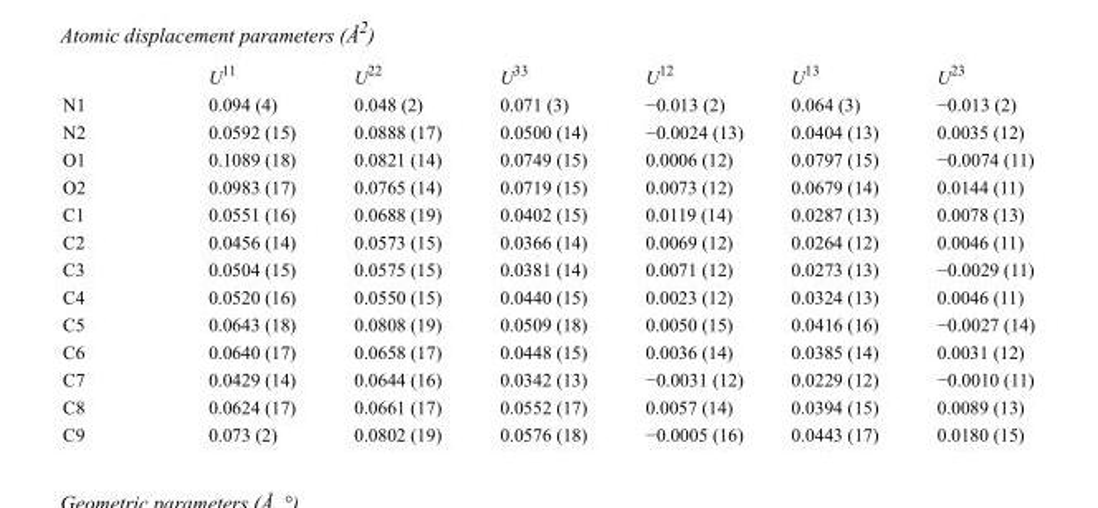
<table><thead><tr><td></td><td>U<sup>11</sup></td><td>U<sup>22</sup></td><td>U<sup>33</sup></td><td>U<sup>12</sup></td><td>U<sup>13</sup></td><td>U<sup>23</sup></td></tr></thead><tbody><tr><td>N1</td><td>0.094 (4)</td><td>0.048 (2)</td><td>0.071 (3)</td><td>−0.013 (2)</td><td>0.064 (3)</td><td>−0.013 (2)</td></tr><tr><td>N2</td><td>0.0592 (15)</td><td>0.0888 (17)</td><td>0.0500 (14)</td><td>−0.0024 (13)</td><td>0.0404 (13)</td><td>0.0035 (12)</td></tr><tr><td>O1</td><td>0.1089 (18)</td><td>0.0821 (14)</td><td>0.0749 (15)</td><td>0.0006 (12)</td><td>0.0797 (15)</td><td>−0.0074 (11)</td></tr><tr><td>O2</td><td>0.0983 (17)</td><td>0.0765 (14)</td><td>0.0719 (15)</td><td>0.0073 (12)</td><td>0.0679 (14)</td><td>0.0144 (11)</td></tr><tr><td>C1</td><td>0.0551 (16)</td><td>0.0688 (19)</td><td>0.0402 (15)</td><td>0.0119 (14)</td><td>0.0287 (13)</td><td>0.0078 (13)</td></tr><tr><td>C2</td><td>0.0456 (14)</td><td>0.0573 (15)</td><td>0.0366 (14)</td><td>0.0069 (12)</td><td>0.0264 (12)</td><td>0.0046 (11)</td></tr><tr><td>C3</td><td>0.0504 (15)</td><td>0.0575 (15)</td><td>0.0381 (14)</td><td>0.0071 (12)</td><td>0.0273 (13)</td><td>−0.0029 (11)</td></tr><tr><td>C4</td><td>0.0520 (16)</td><td>0.0550 (15)</td><td>0.0440 (15)</td><td>0.0023 (12)</td><td>0.0324 (13)</td><td>0.0046 (11)</td></tr><tr><td>C5</td><td>0.0643 (18)</td><td>0.0808 (19)</td><td>0.0509 (18)</td><td>0.0050 (15)</td><td>0.0416 (16)</td><td>−0.0027 (14)</td></tr><tr><td>C6</td><td>0.0640 (17)</td><td>0.0658 (17)</td><td>0.0448 (15)</td><td>0.0036 (14)</td><td>0.0385 (14)</td><td>0.0031 (12)</td></tr><tr><td>C7</td><td>0.0429 (14)</td><td>0.0644 (16)</td><td>0.0342 (13)</td><td>−0.0031 (12)</td><td>0.0229 (12)</td><td>−0.0010 (11)</td></tr><tr><td>C8</td><td>0.0624 (17)</td><td>0.0661 (17)</td><td>0.0552 (17)</td><td>0.0057 (14)</td><td>0.0394 (15)</td><td>0.0089 (13)</td></tr><tr><td>C9</td><td>0.073 (2)</td><td>0.0802 (19)</td><td>0.0576 (18)</td><td>−0.0005 (16)</td><td>0.0443 (17)</td><td>0.0180 (15)</td></tr></tbody></table>